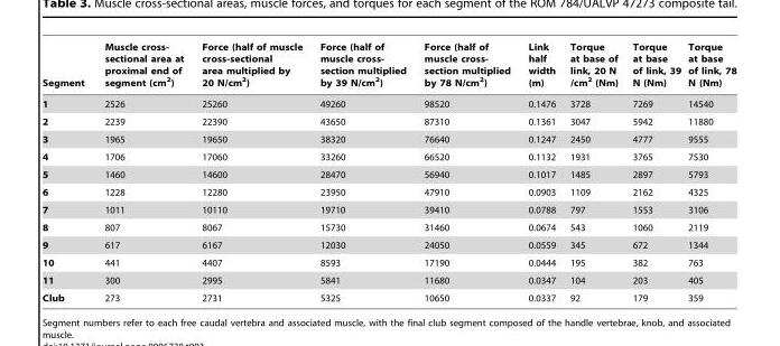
<table><thead><tr><td>Segment</td><td>Muscle cross- sectional area at proximal end of segment (cm<sup>2</sup>)</td><td>Force (half of muscle cross-sectional area multiplied by 20 N/cm<sup>2</sup>)</td><td>Force (half of muscle cross- section multiplied by 39 N/cm<sup>2</sup>)</td><td>Force (half of muscle cross- section multiplied by 78 N/cm<sup>2</sup>)</td><td>Link half width (m)</td><td>Torque at base of link, 20 N /cm<sup>2</sup> (Nm)</td><td>Torque at base of link, 39 N (Nm)</td><td>Torque at base of link, 78 N (Nm)</td></tr></thead><tbody><tr><td>1</td><td>2526</td><td>25260</td><td>49260</td><td>98520</td><td>0.1476</td><td>3728</td><td>7269</td><td>14540</td></tr><tr><td>2</td><td>2239</td><td>22390</td><td>43650</td><td>87310</td><td>0.1361</td><td>3047</td><td>5942</td><td>11880</td></tr><tr><td>3</td><td>1965</td><td>19650</td><td>38320</td><td>76640</td><td>0.1247</td><td>2450</td><td>4777</td><td>9555</td></tr><tr><td>4</td><td>1706</td><td>17060</td><td>33260</td><td>66520</td><td>0.1132</td><td>1931</td><td>3765</td><td>7530</td></tr><tr><td>5</td><td>1460</td><td>14600</td><td>28470</td><td>56940</td><td>0.1017</td><td>1485</td><td>2897</td><td>5793</td></tr><tr><td>6</td><td>1228</td><td>12280</td><td>23950</td><td>47910</td><td>0.0903</td><td>1109</td><td>2162</td><td>4325</td></tr><tr><td>7</td><td>1011</td><td>10110</td><td>19710</td><td>39410</td><td>0.0788</td><td>797</td><td>1553</td><td>3106</td></tr><tr><td>8</td><td>807</td><td>8067</td><td>15730</td><td>31460</td><td>0.0674</td><td>543</td><td>1060</td><td>2119</td></tr><tr><td>9</td><td>617</td><td>6167</td><td>12030</td><td>24050</td><td>0.0559</td><td>345</td><td>672</td><td>1344</td></tr><tr><td>10</td><td>441</td><td>4407</td><td>8593</td><td>17190</td><td>0.0444</td><td>195</td><td>382</td><td>763</td></tr><tr><td>11</td><td>300</td><td>2995</td><td>5841</td><td>11680</td><td>0.0347</td><td>104</td><td>203</td><td>405</td></tr><tr><td>Club</td><td>273</td><td>2731</td><td>5325</td><td>10650</td><td>0.0337</td><td>92</td><td>179</td><td>359</td></tr></tbody></table>